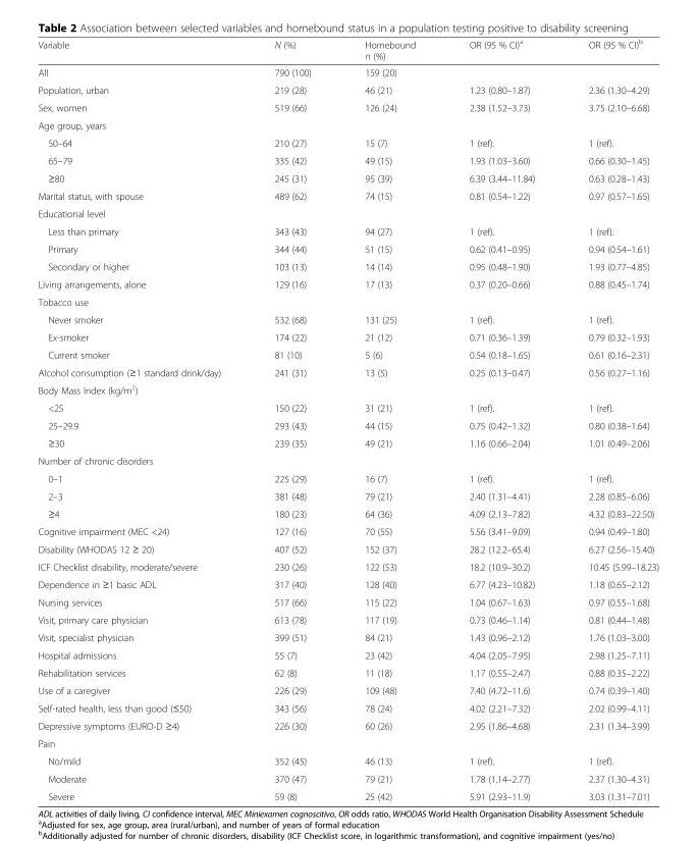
<table><thead><tr><td>Variable</td><td>N (%)</td><td>Homebound n (%)</td><td>OR (95 % CI)<sup>a</sup></td><td>OR (95 % CI)<sup>b</sup></td></tr></thead><tbody><tr><td>All</td><td>790 (100)</td><td>159 (20)</td><td></td><td></td></tr><tr><td>Population, urban</td><td>219 (28)</td><td>46 (21)</td><td>1.23 (0.80–1.87)</td><td>2.36 (1.30–4.29)</td></tr><tr><td>Sex, women</td><td>519 (66)</td><td>126 (24)</td><td>2.38 (1.52–3.73)</td><td>3.75 (2.10–6.68)</td></tr><tr><td colspan="5">Age group, years</td></tr><tr><td>50–64</td><td>210 (27)</td><td>15 (7)</td><td>1 (ref).</td><td>1 (ref).</td></tr><tr><td>65–79</td><td>335 (42)</td><td>49 (15)</td><td>1.93 (1.03–3.60)</td><td>0.66 (0.30–1.45)</td></tr><tr><td>≥80</td><td>245 (31)</td><td>95 (39)</td><td>6.39 (3.44–11.84)</td><td>0.63 (0.28–1.43)</td></tr><tr><td>Marital status, with spouse</td><td>489 (62)</td><td>74 (15)</td><td>0.81 (0.54–1.22)</td><td>0.97 (0.57–1.65)</td></tr><tr><td colspan="5">Educational level</td></tr><tr><td>Less than primary</td><td>343 (43)</td><td>94 (27)</td><td>1 (ref).</td><td>1 (ref).</td></tr><tr><td>Primary</td><td>344 (44)</td><td>51 (15)</td><td>0.62 (0.41–0.95)</td><td>0.94 (0.54–1.61)</td></tr><tr><td>Secondary or higher</td><td>103 (13)</td><td>14 (14)</td><td>0.95 (0.48–1.90)</td><td>1.93 (0.77–4.85)</td></tr><tr><td>Living arrangements, alone</td><td>129 (16)</td><td>17 (13)</td><td>0.37 (0.20–0.66)</td><td>0.88 (0.45–1.74)</td></tr><tr><td colspan="5">Tobacco use</td></tr><tr><td>Never smoker</td><td>532 (68)</td><td>131 (25)</td><td>1 (ref).</td><td>1 (ref).</td></tr><tr><td>Ex-smoker</td><td>174 (22)</td><td>21 (12)</td><td>0.71 (0.36–1.39)</td><td>0.79 (0.32–1.93)</td></tr><tr><td>Current smoker</td><td>81 (10)</td><td>5 (6)</td><td>0.54 (0.18–1.65)</td><td>0.61 (0.16–2.31)</td></tr><tr><td>Alcohol consumption (≥1 standard drink/day)</td><td>241 (31)</td><td>13 (5)</td><td>0.25 (0.13–0.47)</td><td>0.56 (0.27–1.16)</td></tr><tr><td colspan="5">Body Mass Index (kg/m<sup>2</sup>)</td></tr><tr><td>&lt;25</td><td>150 (22)</td><td>31 (21)</td><td>1 (ref).</td><td>1 (ref).</td></tr><tr><td>25–29.9</td><td>293 (43)</td><td>44 (15)</td><td>0.75 (0.42–1.32)</td><td>0.80 (0.38–1.64)</td></tr><tr><td>≥30</td><td>239 (35)</td><td>49 (21)</td><td>1.16 (0.66–2.04)</td><td>1.01 (0.49–2.06)</td></tr><tr><td colspan="5">Number of chronic disorders</td></tr><tr><td>0–1</td><td>225 (29)</td><td>16 (7)</td><td>1 (ref).</td><td>1 (ref).</td></tr><tr><td>2–3</td><td>381 (48)</td><td>79 (21)</td><td>2.40 (1.31–4.41)</td><td>2.28 (0.85–6.06)</td></tr><tr><td>≥4</td><td>180 (23)</td><td>64 (36)</td><td>4.09 (2.13–7.82)</td><td>4.32 (0.83–22.50)</td></tr><tr><td>Cognitive impairment (MEC &lt;24)</td><td>127 (16)</td><td>70 (55)</td><td>5.56 (3.41–9.09)</td><td>0.94 (0.49–1.80)</td></tr><tr><td>Disability (WHODAS 12 ≥ 20)</td><td>407 (52)</td><td>152 (37)</td><td>28.2 (12.2–65.4)</td><td>6.27 (2.56–15.40)</td></tr><tr><td>ICF Checklist disability, moderate/severe</td><td>230 (26)</td><td>122 (53)</td><td>18.2 (10.9–30.2)</td><td>10.45 (5.99–18.23)</td></tr><tr><td>Dependence in ≥1 basic ADL</td><td>317 (40)</td><td>128 (40)</td><td>6.77 (4.23–10.82)</td><td>1.18 (0.65–2.12)</td></tr><tr><td>Nursing services</td><td>517 (66)</td><td>115 (22)</td><td>1.04 (0.67–1.63)</td><td>0.97 (0.55–1.68)</td></tr><tr><td>Visit, primary care physician</td><td>613 (78)</td><td>117 (19)</td><td>0.73 (0.46–1.14)</td><td>0.81 (0.44–1.48)</td></tr><tr><td>Visit, specialist physician</td><td>399 (51)</td><td>84 (21)</td><td>1.43 (0.96–2.12)</td><td>1.76 (1.03–3.00)</td></tr><tr><td>Hospital admissions</td><td>55 (7)</td><td>23 (42)</td><td>4.04 (2.05–7.95)</td><td>2.98 (1.25–7.11)</td></tr><tr><td>Rehabilitation services</td><td>62 (8)</td><td>11 (18)</td><td>1.17 (0.55–2.47)</td><td>0.88 (0.35–2.22)</td></tr><tr><td>Use of a caregiver</td><td>226 (29)</td><td>109 (48)</td><td>7.40 (4.72–11.6)</td><td>0.74 (0.39–1.40)</td></tr><tr><td>Self-rated health, less than good (≤50)</td><td>343 (56)</td><td>78 (24)</td><td>4.02 (2.21–7.32)</td><td>2.02 (0.99–4.11)</td></tr><tr><td>Depressive symptoms (EURO-D ≥4)</td><td>226 (30)</td><td>60 (26)</td><td>2.95 (1.86–4.68)</td><td>2.31 (1.34–3.99)</td></tr><tr><td colspan="5">Pain</td></tr><tr><td>No/mild</td><td>352 (45)</td><td>46 (13)</td><td>1 (ref).</td><td>1 (ref).</td></tr><tr><td>Moderate</td><td>370 (47)</td><td>79 (21)</td><td>1.78 (1.14–2.77)</td><td>2.37 (1.30–4.31)</td></tr><tr><td>Severe</td><td>59 (8)</td><td>25 (42)</td><td>5.91 (2.93–11.9)</td><td>3.03 (1.31–7.01)</td></tr></tbody></table>